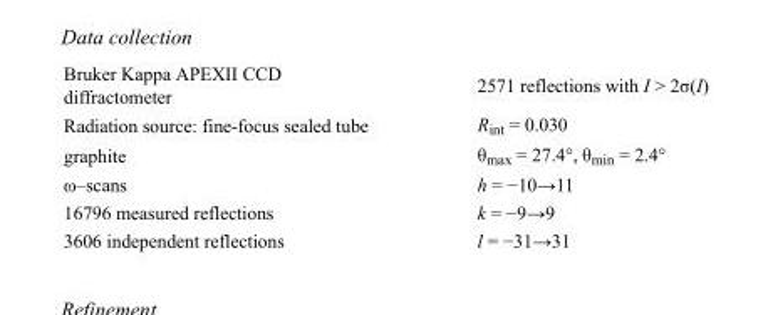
<table><tbody><tr><td>Bruker Kappa APEXII CCD diffractometer</td><td>2571 reflections with I &gt; 2σ(I)</td></tr><tr><td>Radiation source: fine-focus sealed tube</td><td>R<sub>int</sub> = 0.030</td></tr><tr><td>graphite</td><td>θ<sub>max</sub> = 27.4°, θ<sub>min</sub> = 2.4°</td></tr><tr><td>ω–scans</td><td>h = −10→11</td></tr><tr><td>16796 measured reflections</td><td>k = −9→9</td></tr><tr><td>3606 independent reflections</td><td>l = −31→31</td></tr></tbody></table>